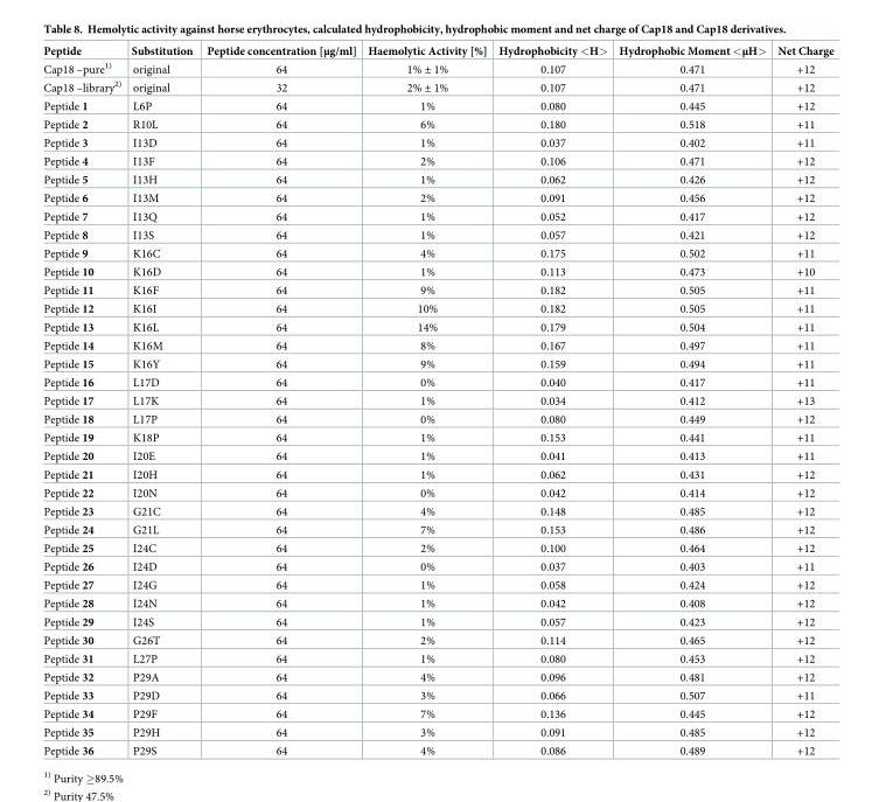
<table><thead><tr><td>Peptide</td><td>Substitution</td><td>Peptide concentration [μg/ml]</td><td>Haemolytic Activity [%]</td><td>Hydrophobicity &lt;H&gt;</td><td>Hydrophobic Moment &lt;μH&gt;</td><td>Net Charge</td></tr></thead><tbody><tr><td>Cap18 –pure<sup>1)</sup></td><td>original</td><td>64</td><td>1% ± 1%</td><td>0.107</td><td>0.471</td><td>+12</td></tr><tr><td>Cap18 –library<sup>2)</sup></td><td>original</td><td>32</td><td>2% ± 1%</td><td>0.107</td><td>0.471</td><td>+12</td></tr><tr><td>Peptide 1</td><td>L6P</td><td>64</td><td>1%</td><td>0.080</td><td>0.445</td><td>+12</td></tr><tr><td>Peptide 2</td><td>R10L</td><td>64</td><td>6%</td><td>0.180</td><td>0.518</td><td>+11</td></tr><tr><td>Peptide 3</td><td>I13D</td><td>64</td><td>1%</td><td>0.037</td><td>0.402</td><td>+11</td></tr><tr><td>Peptide 4</td><td>I13F</td><td>64</td><td>2%</td><td>0.106</td><td>0.471</td><td>+12</td></tr><tr><td>Peptide 5</td><td>I13H</td><td>64</td><td>1%</td><td>0.062</td><td>0.426</td><td>+12</td></tr><tr><td>Peptide 6</td><td>I13M</td><td>64</td><td>2%</td><td>0.091</td><td>0.456</td><td>+12</td></tr><tr><td>Peptide 7</td><td>I13Q</td><td>64</td><td>1%</td><td>0.052</td><td>0.417</td><td>+12</td></tr><tr><td>Peptide 8</td><td>I13S</td><td>64</td><td>1%</td><td>0.057</td><td>0.421</td><td>+12</td></tr><tr><td>Peptide 9</td><td>K16C</td><td>64</td><td>4%</td><td>0.175</td><td>0.502</td><td>+11</td></tr><tr><td>Peptide 10</td><td>K16D</td><td>64</td><td>1%</td><td>0.113</td><td>0.473</td><td>+10</td></tr><tr><td>Peptide 11</td><td>K16F</td><td>64</td><td>9%</td><td>0.182</td><td>0.505</td><td>+11</td></tr><tr><td>Peptide 12</td><td>K16I</td><td>64</td><td>10%</td><td>0.182</td><td>0.505</td><td>+11</td></tr><tr><td>Peptide 13</td><td>K16L</td><td>64</td><td>14%</td><td>0.179</td><td>0.504</td><td>+11</td></tr><tr><td>Peptide 14</td><td>K16M</td><td>64</td><td>8%</td><td>0.167</td><td>0.497</td><td>+11</td></tr><tr><td>Peptide 15</td><td>K16Y</td><td>64</td><td>9%</td><td>0.159</td><td>0.494</td><td>+11</td></tr><tr><td>Peptide 16</td><td>L17D</td><td>64</td><td>0%</td><td>0.040</td><td>0.417</td><td>+11</td></tr><tr><td>Peptide 17</td><td>L17K</td><td>64</td><td>1%</td><td>0.034</td><td>0.412</td><td>+13</td></tr><tr><td>Peptide 18</td><td>L17P</td><td>64</td><td>0%</td><td>0.080</td><td>0.449</td><td>+12</td></tr><tr><td>Peptide 19</td><td>K18P</td><td>64</td><td>1%</td><td>0.153</td><td>0.441</td><td>+11</td></tr><tr><td>Peptide 20</td><td>I20E</td><td>64</td><td>1%</td><td>0.041</td><td>0.413</td><td>+11</td></tr><tr><td>Peptide 21</td><td>I20H</td><td>64</td><td>1%</td><td>0.062</td><td>0.431</td><td>+12</td></tr><tr><td>Peptide 22</td><td>I20N</td><td>64</td><td>0%</td><td>0.042</td><td>0.414</td><td>+12</td></tr><tr><td>Peptide 23</td><td>G21C</td><td>64</td><td>4%</td><td>0.148</td><td>0.485</td><td>+12</td></tr><tr><td>Peptide 24</td><td>G21L</td><td>64</td><td>7%</td><td>0.153</td><td>0.486</td><td>+12</td></tr><tr><td>Peptide 25</td><td>I24C</td><td>64</td><td>2%</td><td>0.100</td><td>0.464</td><td>+12</td></tr><tr><td>Peptide 26</td><td>I24D</td><td>64</td><td>0%</td><td>0.037</td><td>0.403</td><td>+11</td></tr><tr><td>Peptide 27</td><td>I24G</td><td>64</td><td>1%</td><td>0.058</td><td>0.424</td><td>+12</td></tr><tr><td>Peptide 28</td><td>I24N</td><td>64</td><td>1%</td><td>0.042</td><td>0.408</td><td>+12</td></tr><tr><td>Peptide 29</td><td>I24S</td><td>64</td><td>1%</td><td>0.057</td><td>0.423</td><td>+12</td></tr><tr><td>Peptide 30</td><td>G26T</td><td>64</td><td>2%</td><td>0.114</td><td>0.465</td><td>+12</td></tr><tr><td>Peptide 31</td><td>L27P</td><td>64</td><td>1%</td><td>0.080</td><td>0.453</td><td>+12</td></tr><tr><td>Peptide 32</td><td>P29A</td><td>64</td><td>4%</td><td>0.096</td><td>0.481</td><td>+12</td></tr><tr><td>Peptide 33</td><td>P29D</td><td>64</td><td>3%</td><td>0.066</td><td>0.507</td><td>+11</td></tr><tr><td>Peptide 34</td><td>P29F</td><td>64</td><td>7%</td><td>0.136</td><td>0.445</td><td>+12</td></tr><tr><td>Peptide 35</td><td>P29H</td><td>64</td><td>3%</td><td>0.091</td><td>0.485</td><td>+12</td></tr><tr><td>Peptide 36</td><td>P29S</td><td>64</td><td>4%</td><td>0.086</td><td>0.489</td><td>+12</td></tr></tbody></table>